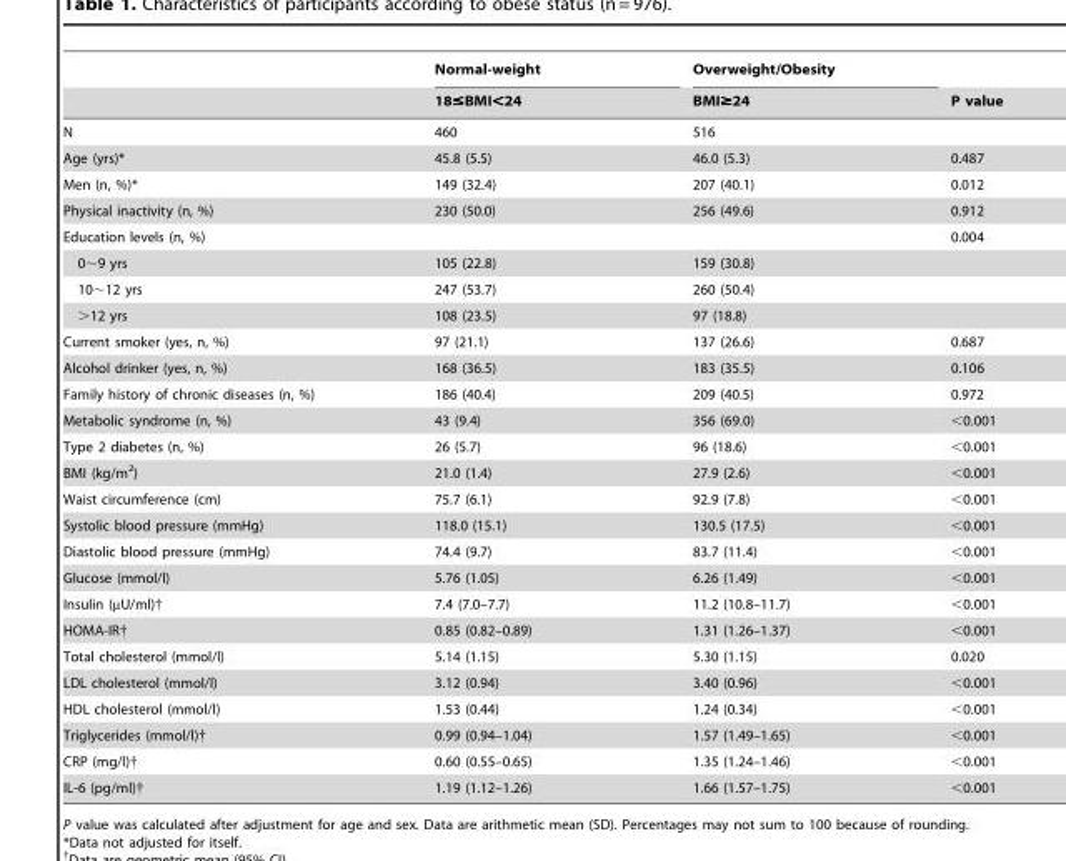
<table><thead><tr><td rowspan="2"></td><td rowspan="2">Normal-weight 18≤BMI&lt;24</td><td rowspan="2">Overweight/Obesity BMI≥24</td><td rowspan="2">P value</td></tr><tr></tr></thead><tbody><tr><td>N</td><td>460</td><td>516</td><td></td></tr><tr><td>Age (yrs)*</td><td>45.8 (5.5)</td><td>46.0 (5.3)</td><td>0.487</td></tr><tr><td>Men (n, %)*</td><td>149 (32.4)</td><td>207 (40.1)</td><td>0.012</td></tr><tr><td>Physical inactivity (n, %)</td><td>230 (50.0)</td><td>256 (49.6)</td><td>0.912</td></tr><tr><td>Education levels (n, %)</td><td></td><td></td><td>0.004</td></tr><tr><td>0∼9 yrs</td><td>105 (22.8)</td><td>159 (30.8)</td><td></td></tr><tr><td>10∼12 yrs</td><td>247 (53.7)</td><td>260 (50.4)</td><td></td></tr><tr><td>&gt;12 yrs</td><td>108 (23.5)</td><td>97 (18.8)</td><td></td></tr><tr><td>Current smoker (yes, n, %)</td><td>97 (21.1)</td><td>137 (26.6)</td><td>0.687</td></tr><tr><td>Alcohol drinker (yes, n, %)</td><td>168 (36.5)</td><td>183 (35.5)</td><td>0.106</td></tr><tr><td>Family history of chronic diseases (n, %)</td><td>186 (40.4)</td><td>209 (40.5)</td><td>0.972</td></tr><tr><td>Metabolic syndrome (n, %)</td><td>43 (9.4)</td><td>356 (69.0)</td><td>&lt;0.001</td></tr><tr><td>Type 2 diabetes (n, %)</td><td>26 (5.7)</td><td>96 (18.6)</td><td>&lt;0.001</td></tr><tr><td>BMI (kg/m<sup>2</sup>)</td><td>21.0 (1.4)</td><td>27.9 (2.6)</td><td>&lt;0.001</td></tr><tr><td>Waist circumference (cm)</td><td>75.7 (6.1)</td><td>92.9 (7.8)</td><td>&lt;0.001</td></tr><tr><td>Systolic blood pressure (mmHg)</td><td>118.0 (15.1)</td><td>130.5 (17.5)</td><td>&lt;0.001</td></tr><tr><td>Diastolic blood pressure (mmHg)</td><td>74.4 (9.7)</td><td>83.7 (11.4)</td><td>&lt;0.001</td></tr><tr><td>Glucose (mmol/l)</td><td>5.76 (1.05)</td><td>6.26 (1.49)</td><td>&lt;0.001</td></tr><tr><td>Insulin (µU/ml)†</td><td>7.4 (7.0–7.7)</td><td>11.2 (10.8–11.7)</td><td>&lt;0.001</td></tr><tr><td>HOMA-IR†</td><td>0.85 (0.82–0.89)</td><td>1.31 (1.26–1.37)</td><td>&lt;0.001</td></tr><tr><td>Total cholesterol (mmol/l)</td><td>5.14 (1.15)</td><td>5.30 (1.15)</td><td>0.020</td></tr><tr><td>LDL cholesterol (mmol/l)</td><td>3.12 (0.94)</td><td>3.40 (0.96)</td><td>&lt;0.001</td></tr><tr><td>HDL cholesterol (mmol/l)</td><td>1.53 (0.44)</td><td>1.24 (0.34)</td><td>&lt;0.001</td></tr><tr><td>Triglycerides (mmol/l)†</td><td>0.99 (0.94–1.04)</td><td>1.57 (1.49–1.65)</td><td>&lt;0.001</td></tr><tr><td>CRP (mg/l)†</td><td>0.60 (0.55–0.65)</td><td>1.35 (1.24–1.46)</td><td>&lt;0.001</td></tr><tr><td>IL-6 (pg/ml)†</td><td>1.19 (1.12–1.26)</td><td>1.66 (1.57–1.75)</td><td>&lt;0.001</td></tr></tbody></table>